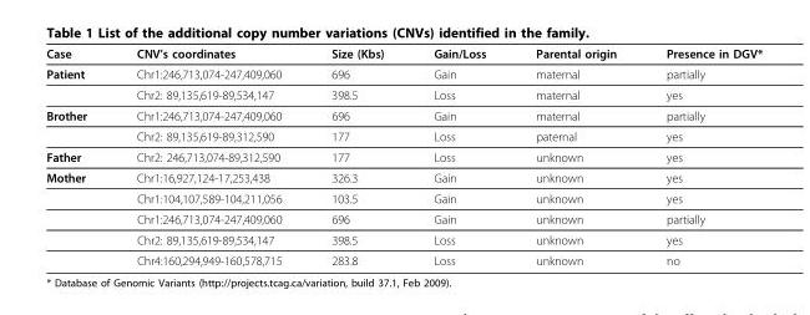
<table><thead><tr><td>Case</td><td>CNV’s coordinates</td><td>Size (Kbs)</td><td>Gain/Loss</td><td>Parental origin</td><td>Presence in DGV*</td></tr></thead><tbody><tr><td rowspan="2">Patient</td><td>Chr1:246,713,074-247,409,060</td><td>696</td><td>Gain</td><td>maternal</td><td>partially</td></tr><tr><td>Chr2: 89,135,619-89,534,147</td><td>398.5</td><td>Loss</td><td>maternal</td><td>yes</td></tr><tr><td rowspan="2">Brother</td><td>Chr1:246,713,074-247,409,060</td><td>696</td><td>Gain</td><td>maternal</td><td>partially</td></tr><tr><td>Chr2: 89,135,619-89,312,590</td><td>177</td><td>Loss</td><td>paternal</td><td>yes</td></tr><tr><td>Father</td><td>Chr2: 246,713,074-89,312,590</td><td>177</td><td>Loss</td><td>unknown</td><td>yes</td></tr><tr><td rowspan="5">Mother</td><td>Chr1:16,927,124-17,253,438</td><td>326.3</td><td>Gain</td><td>unknown</td><td>yes</td></tr><tr><td>Chr1:104,107,589-104,211,056</td><td>103.5</td><td>Gain</td><td>unknown</td><td>yes</td></tr><tr><td>Chr1:246,713,074-247,409,060</td><td>696</td><td>Gain</td><td>unknown</td><td>partially</td></tr><tr><td>Chr2: 89,135,619-89,534,147</td><td>398.5</td><td>Loss</td><td>unknown</td><td>yes</td></tr><tr><td>Chr4:160,294,949-160,578,715</td><td>283.8</td><td>Loss</td><td>unknown</td><td>no</td></tr></tbody></table>